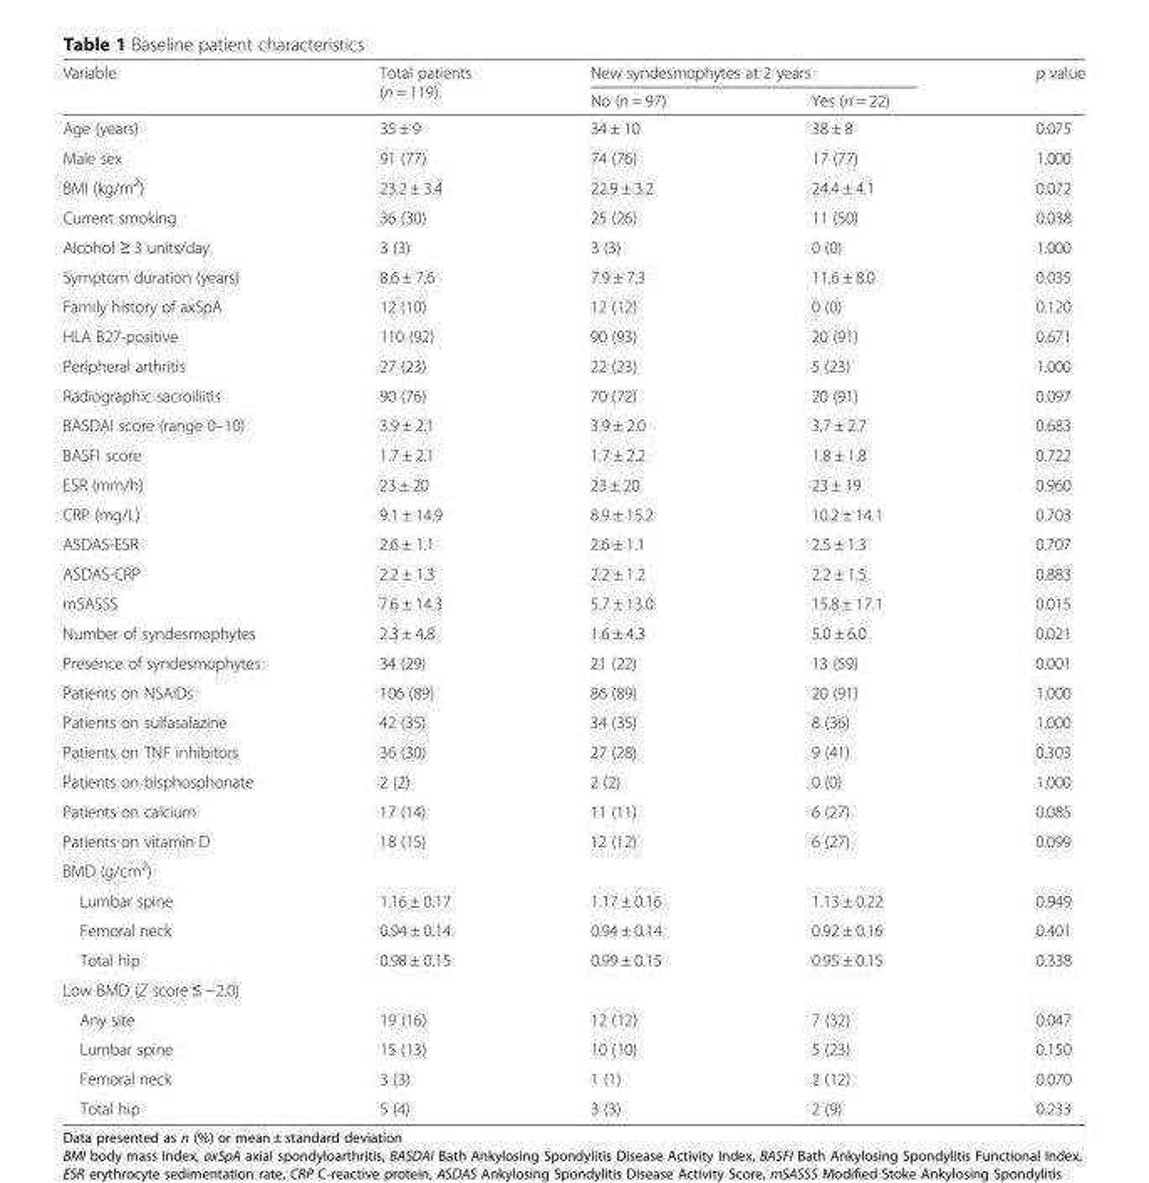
<table><thead><tr><td rowspan="2">Variable</td><td rowspan="2">Total patients (n = 119)</td><td colspan="2">New syndesmophytes at 2 years</td><td rowspan="2">p value</td></tr><tr><td>No (n = 97)</td><td>Yes (n = 22)</td></tr></thead><tbody><tr><td>Age (years)</td><td>35 ± 9</td><td>34 ± 10</td><td>38 ± 8</td><td>0.075</td></tr><tr><td>Male sex</td><td>91 (77)</td><td>74 (76)</td><td>17 (77)</td><td>1.000</td></tr><tr><td>BMI (kg/m<sup>2</sup>)</td><td>23.2 ± 3.4</td><td>22.9 ± 3.2</td><td>24.4 ± 4.1</td><td>0.072</td></tr><tr><td>Current smoking</td><td>36 (30)</td><td>25 (26)</td><td>11 (50)</td><td>0.038</td></tr><tr><td>Alcohol ≥ 3 units/day</td><td>3 (3)</td><td>3 (3)</td><td>0 (0)</td><td>1.000</td></tr><tr><td>Symptom duration (years)</td><td>8.6 ± 7.6</td><td>7.9 ± 7.3</td><td>11.6 ± 8.0</td><td>0.035</td></tr><tr><td>Family history of axSpA</td><td>12 (10)</td><td>12 (12)</td><td>0 (0)</td><td>0.120</td></tr><tr><td>HLA B27-positive</td><td>110 (92)</td><td>90 (93)</td><td>20 (91)</td><td>0.671</td></tr><tr><td>Peripheral arthritis</td><td>27 (23)</td><td>22 (23)</td><td>5 (23)</td><td>1.000</td></tr><tr><td>Radiographic sacroiliitis</td><td>90 (76)</td><td>70 (72)</td><td>20 (91)</td><td>0.097</td></tr><tr><td>BASDAI score (range 0–10)</td><td>3.9 ± 2.1</td><td>3.9 ± 2.0</td><td>3.7 ± 2.7</td><td>0.683</td></tr><tr><td>BASFI score</td><td>1.7 ± 2.1</td><td>1.7 ± 2.2</td><td>1.8 ± 1.8</td><td>0.722</td></tr><tr><td>ESR (mm/h)</td><td>23 ± 20</td><td>23 ± 20</td><td>23 ± 19</td><td>0.960</td></tr><tr><td>CRP (mg/L)</td><td>9.1 ± 14.9</td><td>8.9 ± 15.2</td><td>10.2 ± 14.1</td><td>0.703</td></tr><tr><td>ASDAS-ESR</td><td>2.6 ± 1.1</td><td>2.6 ± 1.1</td><td>2.5 ± 1.3</td><td>0.707</td></tr><tr><td>ASDAS-CRP</td><td>2.2 ± 1.3</td><td>2.2 ± 1.2</td><td>2.2 ± 1.5</td><td>0.883</td></tr><tr><td>mSASSS</td><td>7.6 ± 14.3</td><td>5.7 ± 13.0</td><td>15.8 ± 17.1</td><td>0.015</td></tr><tr><td>Number of syndesmophytes</td><td>2.3 ± 4.8</td><td>1.6 ± 4.3</td><td>5.0 ± 6.0</td><td>0.021</td></tr><tr><td>Presence of syndesmophytes</td><td>34 (29)</td><td>21 (22)</td><td>13 (59)</td><td>0.001</td></tr><tr><td>Patients on NSAIDs</td><td>106 (89)</td><td>86 (89)</td><td>20 (91)</td><td>1.000</td></tr><tr><td>Patients on sulfasalazine</td><td>42 (35)</td><td>34 (35)</td><td>8 (36)</td><td>1.000</td></tr><tr><td>Patients on TNF inhibitors</td><td>36 (30)</td><td>27 (28)</td><td>9 (41)</td><td>0.303</td></tr><tr><td>Patients on bisphosphonate</td><td>2 (2)</td><td>2 (2)</td><td>0 (0)</td><td>1.000</td></tr><tr><td>Patients on calcium</td><td>17 (14)</td><td>11 (11)</td><td>6 (27)</td><td>0.085</td></tr><tr><td>Patients on vitamin D</td><td>18 (15)</td><td>12 (12)</td><td>6 (27)</td><td>0.099</td></tr><tr><td colspan="5">BMD (g/cm<sup>2</sup>)</td></tr><tr><td>Lumbar spine</td><td>1.16 ± 0.17</td><td>1.17 ± 0.16</td><td>1.13 ± 0.22</td><td>0.949</td></tr><tr><td>Femoral neck</td><td>0.94 ± 0.14</td><td>0.94 ± 0.14</td><td>0.92 ± 0.16</td><td>0.401</td></tr><tr><td>Total hip</td><td>0.98 ± 0.15</td><td>0.99 ± 0.15</td><td>0.95 ± 0.15</td><td>0.338</td></tr><tr><td colspan="5">Low BMD (Z score ≤ −2.0)</td></tr><tr><td>Any site</td><td>19 (16)</td><td>12 (12)</td><td>7 (32)</td><td>0.047</td></tr><tr><td>Lumbar spine</td><td>15 (13)</td><td>10 (10)</td><td>5 (23)</td><td>0.150</td></tr><tr><td>Femoral neck</td><td>3 (3)</td><td>1 (1)</td><td>2 (12)</td><td>0.070</td></tr><tr><td>Total hip</td><td>5 (4)</td><td>3 (3)</td><td>2 (9)</td><td>0.233</td></tr></tbody></table>